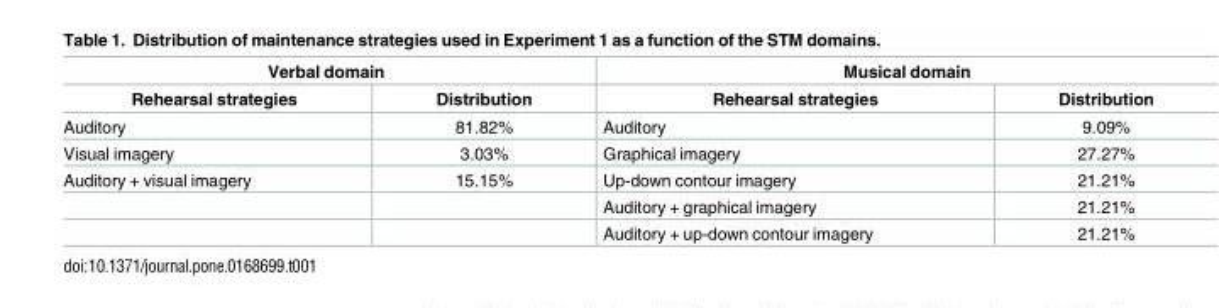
<table><thead><tr><td colspan="2">Verbal domain</td><td colspan="2">Musical domain</td></tr><tr><td>Rehearsal strategies</td><td>Distribution</td><td>Rehearsal strategies</td><td>Distribution</td></tr></thead><tbody><tr><td>Auditory</td><td>81.82%</td><td>Auditory</td><td>9.09%</td></tr><tr><td>Visual imagery</td><td>3.03%</td><td>Graphical imagery</td><td>27.27%</td></tr><tr><td rowspan="3">Auditory + visual imagery</td><td>15.15%</td><td>Up-down contour imagery</td><td>21.21%</td></tr><tr><td></td><td>Auditory + graphical imagery</td><td>21.21%</td></tr><tr><td></td><td>Auditory + up-down contour imagery</td><td>21.21%</td></tr></tbody></table>